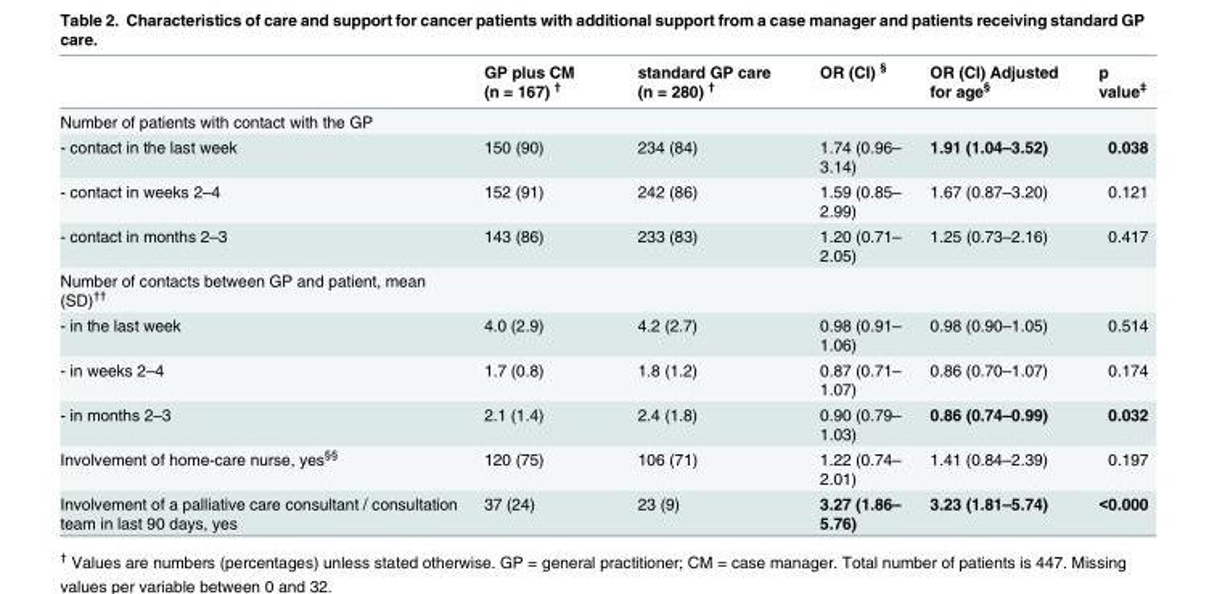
<table><thead><tr><td></td><td>GP plus CM (n = 167) <sup>†</sup></td><td>standard GP care (n = 280) <sup>†</sup></td><td>OR (CI) <sup>§</sup></td><td>OR (CI) Adjusted for age<sup>§</sup></td><td>p value<sup>‡</sup></td></tr></thead><tbody><tr><td colspan="6">Number of patients with contact with the GP</td></tr><tr><td>- contact in the last week</td><td>150 (90)</td><td>234 (84)</td><td>1.74 (0.96– 3.14)</td><td>1.91 (1.04–3.52)</td><td>0.038</td></tr><tr><td>- contact in weeks 2–4</td><td>152 (91)</td><td>242 (86)</td><td>1.59 (0.85– 2.99)</td><td>1.67 (0.87–3.20)</td><td>0.121</td></tr><tr><td>- contact in months 2–3</td><td>143 (86)</td><td>233 (83)</td><td>1.20 (0.71– 2.05)</td><td>1.25 (0.73–2.16)</td><td>0.417</td></tr><tr><td colspan="6">Number of contacts between GP and patient, mean (SD)<sup>††</sup></td></tr><tr><td>- in the last week</td><td>4.0 (2.9)</td><td>4.2 (2.7)</td><td>0.98 (0.91– 1.06)</td><td>0.98 (0.90–1.05)</td><td>0.514</td></tr><tr><td>- in weeks 2–4</td><td>1.7 (0.8)</td><td>1.8 (1.2)</td><td>0.87 (0.71– 1.07)</td><td>0.86 (0.70–1.07)</td><td>0.174</td></tr><tr><td>- in months 2–3</td><td>2.1 (1.4)</td><td>2.4 (1.8)</td><td>0.90 (0.79– 1.03)</td><td>0.86 (0.74–0.99)</td><td>0.032</td></tr><tr><td>Involvement of home-care nurse, yes<sup>§§</sup></td><td>120 (75)</td><td>106 (71)</td><td>1.22 (0.74– 2.01)</td><td>1.41 (0.84–2.39)</td><td>0.197</td></tr><tr><td>Involvement of a palliative care consultant / consultation team in last 90 days, yes</td><td>37 (24)</td><td>23 (9)</td><td>3.27 (1.86– 5.76)</td><td>3.23 (1.81–5.74)</td><td>&lt;0.000</td></tr></tbody></table>